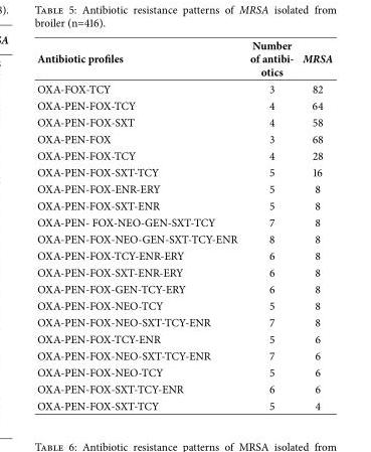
<table><thead><tr><td>Antibiotic profiles</td><td>Number of antibi- otics</td><td>MRSA</td></tr></thead><tbody><tr><td>OXA-FOX-TCY</td><td>3</td><td>82</td></tr><tr><td>OXA-PEN-FOX-TCY</td><td>4</td><td>64</td></tr><tr><td>OXA-PEN-FOX-SXT</td><td>4</td><td>58</td></tr><tr><td>OXA-PEN-FOX</td><td>3</td><td>68</td></tr><tr><td>OXA-PEN-FOX-TCY</td><td>4</td><td>28</td></tr><tr><td>OXA-PEN-FOX-SXT-TCY</td><td>5</td><td>16</td></tr><tr><td>OXA-PEN-FOX-ENR-ERY</td><td>5</td><td>8</td></tr><tr><td>OXA-PEN-FOX-SXT-ENR</td><td>5</td><td>8</td></tr><tr><td>OXA-PEN- FOX-NEO-GEN-SXT-TCY</td><td>7</td><td>8</td></tr><tr><td>OXA-PEN-FOX-NEO-GEN-SXT-TCY-ENR</td><td>8</td><td>8</td></tr><tr><td>OXA-PEN-FOX-TCY-ENR-ERY</td><td>6</td><td>8</td></tr><tr><td>OXA-PEN-FOX-SXT-ENR-ERY</td><td>6</td><td>8</td></tr><tr><td>OXA-PEN-FOX-GEN-TCY-ERY</td><td>6</td><td>8</td></tr><tr><td>OXA-PEN-FOX-NEO-TCY</td><td>5</td><td>8</td></tr><tr><td>OXA-PEN-FOX-NEO-SXT-TCY-ENR</td><td>7</td><td>8</td></tr><tr><td>OXA-PEN-FOX-TCY-ENR</td><td>5</td><td>6</td></tr><tr><td>OXA-PEN-FOX-NEO-SXT-TCY-ENR</td><td>7</td><td>6</td></tr><tr><td>OXA-PEN-FOX-NEO-TCY</td><td>5</td><td>6</td></tr><tr><td>OXA-PEN-FOX-SXT-TCY-ENR</td><td>6</td><td>6</td></tr><tr><td>OXA-PEN-FOX-SXT-TCY</td><td>5</td><td>4</td></tr></tbody></table>